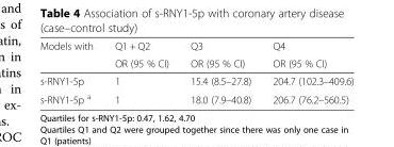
<table><thead><tr><td rowspan="2">Models with</td><td rowspan="2">Q1 + Q2 OR (95 % CI)</td><td rowspan="2">Q3 OR (95 % CI)</td><td rowspan="2">Q4 OR (95 % CI)</td></tr><tr></tr></thead><tbody><tr><td>s-RNY1-5p</td><td>1</td><td>15.4 (8.5–27.8)</td><td>204.7 (102.3–409.6)</td></tr><tr><td>s-RNY1-5p <sup>a</sup></td><td>1</td><td>18.0 (7.9–40.8)</td><td>206.7 (76.2–560.5)</td></tr></tbody></table>